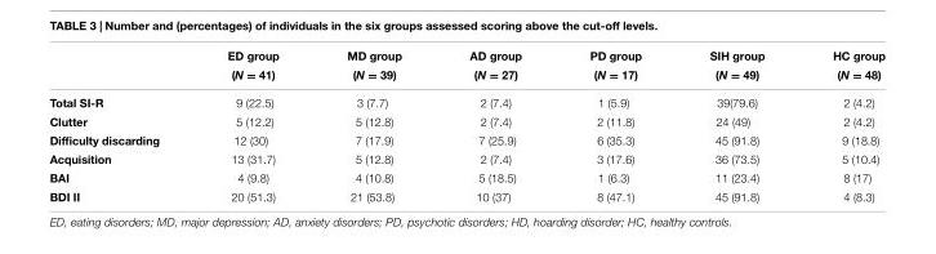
<table><thead><tr><td rowspan="2"></td><td rowspan="2">ED group (N = 41)</td><td rowspan="2">MD group (N = 39)</td><td rowspan="2">AD group (N = 27)</td><td rowspan="2">PD group (N = 17)</td><td rowspan="2">SIH group (N = 49)</td><td rowspan="2">HC group (N = 48)</td></tr><tr></tr></thead><tbody><tr><td>Total SI-R</td><td>9 (22.5)</td><td>3 (7.7)</td><td>2 (7.4)</td><td>1 (5.9)</td><td>39(79.6)</td><td>2 (4.2)</td></tr><tr><td>Clutter</td><td>5 (12.2)</td><td>5 (12.8)</td><td>2 (7.4)</td><td>2 (11.8)</td><td>24 (49)</td><td>2 (4.2)</td></tr><tr><td>Difficulty discarding</td><td>12 (30)</td><td>7 (17.9)</td><td>7 (25.9)</td><td>6 (35.3)</td><td>45 (91.8)</td><td>9 (18.8)</td></tr><tr><td>Acquisition</td><td>13 (31.7)</td><td>5 (12.8)</td><td>2 (7.4)</td><td>3 (17.6)</td><td>36 (73.5)</td><td>5 (10.4)</td></tr><tr><td>BAI</td><td>4 (9.8)</td><td>4 (10.8)</td><td>5 (18.5)</td><td>1 (6.3)</td><td>11 (23.4)</td><td>8 (17)</td></tr><tr><td>BDI II</td><td>20 (51.3)</td><td>21 (53.8)</td><td>10 (37)</td><td>8 (47.1)</td><td>45 (91.8)</td><td>4 (8.3)</td></tr></tbody></table>